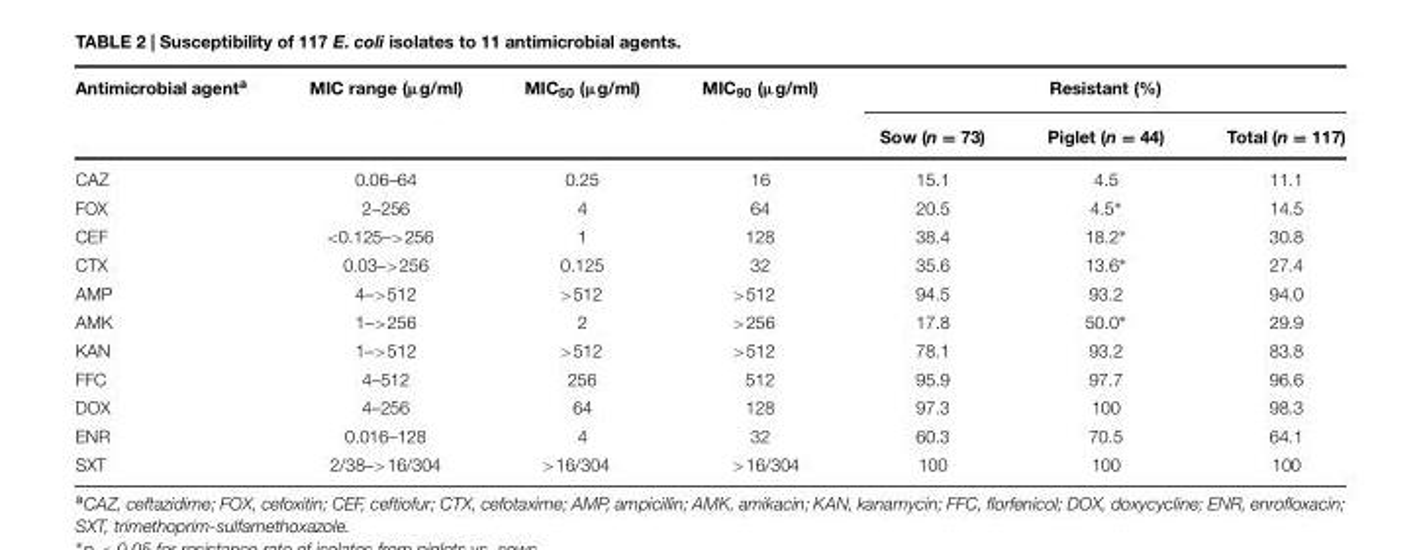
<table><thead><tr><td rowspan="2">Antimicrobial agent<sup>a</sup></td><td rowspan="2">MIC range (µg/ml)</td><td rowspan="2">MIC<sub>50</sub> (µg/ml)</td><td rowspan="2">MIC<sub>90</sub> (µg/ml)</td><td colspan="3">Resistant (%)</td></tr><tr><td>Sow (n = 73)</td><td>Piglet (n = 44)</td><td>Total (n = 117)</td></tr></thead><tbody><tr><td>CAZ</td><td>0.06–64</td><td>0.25</td><td>16</td><td>15.1</td><td>4.5</td><td>11.1</td></tr><tr><td>FOX</td><td>2–256</td><td>4</td><td>64</td><td>20.5</td><td>4.5∗</td><td>14.5</td></tr><tr><td>CEF</td><td>&lt;0.125–&gt;256</td><td>1</td><td>128</td><td>38.4</td><td>18.2∗</td><td>30.8</td></tr><tr><td>CTX</td><td>0.03–&gt;256</td><td>0.125</td><td>32</td><td>35.6</td><td>13.6∗</td><td>27.4</td></tr><tr><td>AMP</td><td>4–&gt;512</td><td>&gt;512</td><td>&gt;512</td><td>94.5</td><td>93.2</td><td>94.0</td></tr><tr><td>AMK</td><td>1–&gt;256</td><td>2</td><td>&gt;256</td><td>17.8</td><td>50.0∗</td><td>29.9</td></tr><tr><td>KAN</td><td>1–&gt;512</td><td>&gt;512</td><td>&gt;512</td><td>78.1</td><td>93.2</td><td>83.8</td></tr><tr><td>FFC</td><td>4–512</td><td>256</td><td>512</td><td>95.9</td><td>97.7</td><td>96.6</td></tr><tr><td>DOX</td><td>4–256</td><td>64</td><td>128</td><td>97.3</td><td>100</td><td>98.3</td></tr><tr><td>ENR</td><td>0.016–128</td><td>4</td><td>32</td><td>60.3</td><td>70.5</td><td>64.1</td></tr><tr><td>SXT</td><td>2/38–&gt;16/304</td><td>&gt;16/304</td><td>&gt;16/304</td><td>100</td><td>100</td><td>100</td></tr></tbody></table>